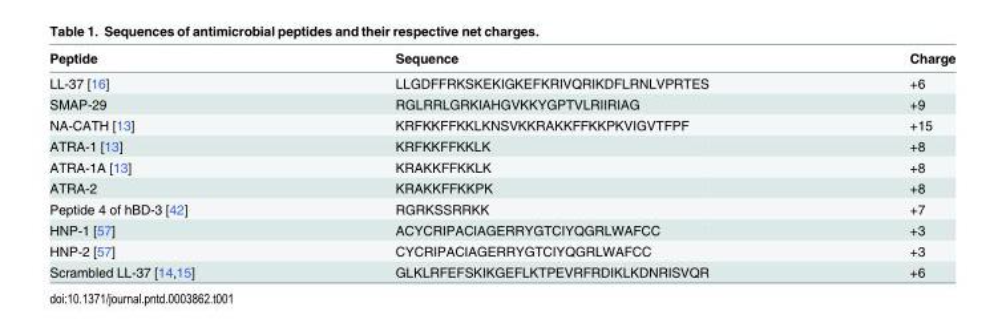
<table><thead><tr><td>Peptide</td><td>Sequence</td><td>Charge</td></tr></thead><tbody><tr><td>LL-37 [16]</td><td>LLGDFFRKSKEKIGKEFKRIVQRIKDFLRNLVPRTES</td><td>+6</td></tr><tr><td>SMAP-29</td><td>RGLRRLGRKIAHGVKKYGPTVLRIIRIAG</td><td>+9</td></tr><tr><td>NA-CATH [13]</td><td>KRFKKFFKKLKNSVKKRAKKFFKKPKVIGVTFPF</td><td>+15</td></tr><tr><td>ATRA-1 [13]</td><td>KRFKKFFKKLK</td><td>+8</td></tr><tr><td>ATRA-1A [13]</td><td>KRAKKFFKKLK</td><td>+8</td></tr><tr><td>ATRA-2</td><td>KRAKKFFKKPK</td><td>+8</td></tr><tr><td>Peptide 4 of hBD-3 [42]</td><td>RGRKSSRRKK</td><td>+7</td></tr><tr><td>HNP-1 [57]</td><td>ACYCRIPACIAGERRYGTCIYQGRLWAFCC</td><td>+3</td></tr><tr><td>HNP-2 [57]</td><td>CYCRIPACIAGERRYGTCIYQGRLWAFCC</td><td>+3</td></tr><tr><td>Scrambled LL-37 [14,15]</td><td>GLKLRFEFSKIKGEFLKTPEVRFRDIKLKDNRISVQR</td><td>+6</td></tr></tbody></table>